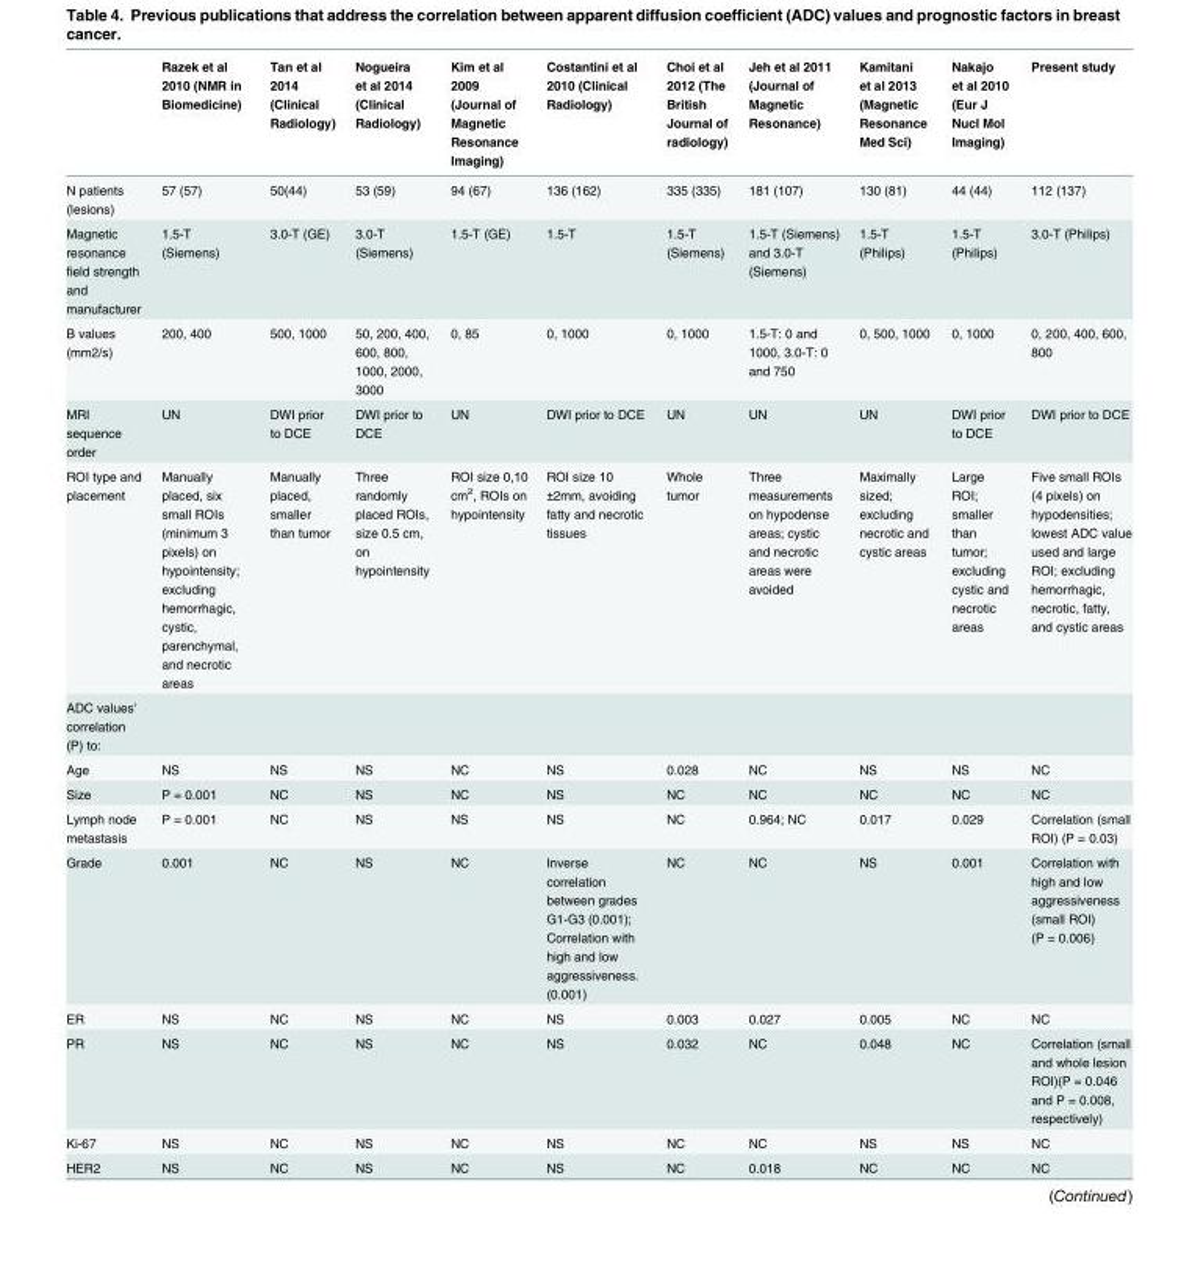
<table><thead><tr><td></td><td>Razek et al 2010 (NMR in Biomedicine)</td><td>Tan et al 2014 (Clinical Radiology)</td><td>Nogueira et al 2014 (Clinical Radiology)</td><td>Kim et al 2009 (Journal of Magnetic Resonance Imaging)</td><td>Costantini et al 2010 (Clinical Radiology)</td><td>Choi et al 2012 (The British Journal of radiology)</td><td>Jeh et al 2011 (Journal of Magnetic Resonance)</td><td>Kamitani et al 2013 (Magnetic Resonance Med Sci)</td><td>Nakajo et al 2010 (Eur J Nucl Mol Imaging)</td><td>Present study</td></tr></thead><tbody><tr><td>N patients (lesions)</td><td>57 (57)</td><td>50(44)</td><td>53 (59)</td><td>94 (67)</td><td>136 (162)</td><td>335 (335)</td><td>181 (107)</td><td>130 (81)</td><td>44 (44)</td><td>112 (137)</td></tr><tr><td>Magnetic resonance field strength and manufacturer</td><td>1.5-T (Siemens)</td><td>3.0-T (GE)</td><td>3.0-T (Siemens)</td><td>1.5-T (GE)</td><td>1.5-T</td><td>1.5-T (Siemens)</td><td>1.5-T (Siemens) and 3.0-T (Siemens)</td><td>1.5-T (Philips)</td><td>1.5-T (Philips)</td><td>3.0-T (Philips)</td></tr><tr><td>B values (mm2/s)</td><td>200, 400</td><td>500, 1000</td><td>50, 200, 400, 600, 800, 1000, 2000, 3000</td><td>0, 85</td><td>0, 1000</td><td>0, 1000</td><td>1.5-T: 0 and 1000, 3.0-T: 0 and 750</td><td>0, 500, 1000</td><td>0, 1000</td><td>0, 200, 400, 600, 800</td></tr><tr><td>MRI sequence order</td><td>UN</td><td>DWI prior to DCE</td><td>DWI prior to DCE</td><td>UN</td><td>DWI prior to DCE</td><td>UN</td><td>UN</td><td>UN</td><td>DWI prior to DCE</td><td>DWI prior to DCE</td></tr><tr><td>ROI type and placement</td><td>Manually placed, six small ROIs (minimum 3 pixels) on hypointensity; excluding hemorrhagic, cystic, parenchymal, and necrotic areas</td><td>Manually placed, smaller than tumor</td><td>Three randomly placed ROIs, size 0.5 cm, on hypointensity</td><td>ROI size 0,10 cm<sup>2</sup>, ROIs on hypointensity</td><td>ROI size 10 ±2mm, avoiding fatty and necrotic tissues</td><td>Whole tumor</td><td>Three measurements on hypodense areas; cystic and necrotic areas were avoided</td><td>Maximally sized; excluding necrotic and cystic areas</td><td>Large ROI; smaller than tumor; excluding cystic and necrotic areas</td><td>Five small ROIs (4 pixels) on hypodensities; lowest ADC value used and large ROI; excluding hemorrhagic, necrotic, fatty, and cystic areas</td></tr><tr><td colspan="11">ADC values’ correlation (P) to:</td></tr><tr><td>Age</td><td>NS</td><td>NS</td><td>NS</td><td>NC</td><td>NS</td><td>0.028</td><td>NC</td><td>NS</td><td>NS</td><td>NC</td></tr><tr><td>Size</td><td>P = 0.001</td><td>NC</td><td>NS</td><td>NC</td><td>NS</td><td>NC</td><td>NC</td><td>NC</td><td>NC</td><td>NC</td></tr><tr><td>Lymph node metastasis</td><td>P = 0.001</td><td>NC</td><td>NS</td><td>NS</td><td>NS</td><td>NC</td><td>0.964; NC</td><td>0.017</td><td>0.029</td><td>Correlation (small ROI) (P = 0.03)</td></tr><tr><td>Grade</td><td>0.001</td><td>NC</td><td>NS</td><td>NC</td><td>Inverse correlation between grades G1-G3 (0.001); Correlation with high and low aggressiveness. (0.001)</td><td>NC</td><td>NC</td><td>NS</td><td>0.001</td><td>Correlation with high and low aggressiveness (small ROI) (P = 0.006)</td></tr><tr><td>ER</td><td>NS</td><td>NC</td><td>NS</td><td>NC</td><td>NS</td><td>0.003</td><td>0.027</td><td>0.005</td><td>NC</td><td>NC</td></tr><tr><td>PR</td><td>NS</td><td>NC</td><td>NS</td><td>NC</td><td>NS</td><td>0.032</td><td>NC</td><td>0.048</td><td>NC</td><td>Correlation (small and whole lesion ROI)(P = 0.046 and P = 0.008, respectively)</td></tr><tr><td>Ki-67</td><td>NS</td><td>NC</td><td>NS</td><td>NC</td><td>NS</td><td>NC</td><td>NC</td><td>NS</td><td>NS</td><td>NC</td></tr><tr><td>HER2</td><td>NS</td><td>NC</td><td>NS</td><td>NC</td><td>NS</td><td>NC</td><td>0.018</td><td>NC</td><td>NC</td><td>NC</td></tr><tr><td></td><td></td><td></td><td></td><td></td><td></td><td></td><td></td><td></td><td></td><td>(Continued)</td></tr></tbody></table>